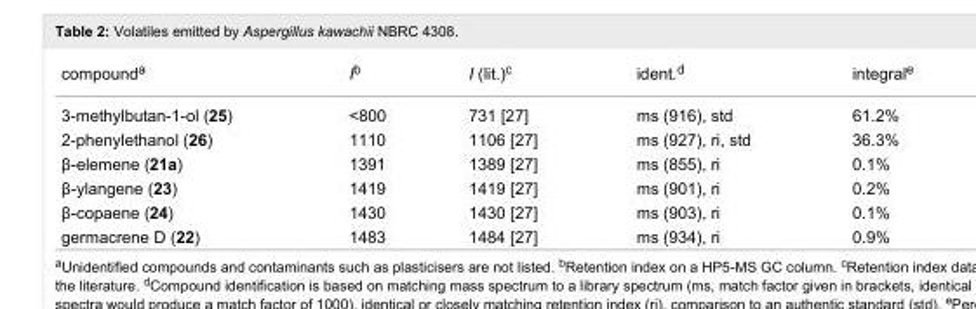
<table><tbody><tr><td>compound<sup>a</sup></td><td>I<sup>b</sup></td><td>I (lit.)<sup>c</sup></td><td>ident.<sup>d</sup></td><td>integral<sup>e</sup></td></tr><tr><td>3-methylbutan-1-ol (25)</td><td>&lt;800</td><td>731 [27]</td><td>ms (916), std</td><td>61.2%</td></tr><tr><td>2-phenylethanol (26)</td><td>1110</td><td>1106 [27]</td><td>ms (927), ri, std</td><td>36.3%</td></tr><tr><td>β-elemene (21a)</td><td>1391</td><td>1389 [27]</td><td>ms (855), ri</td><td>0.1%</td></tr><tr><td>β-ylangene (23)</td><td>1419</td><td>1419 [27]</td><td>ms (901), ri</td><td>0.2%</td></tr><tr><td>β-copaene (24)</td><td>1430</td><td>1430 [27]</td><td>ms (903), ri</td><td>0.1%</td></tr><tr><td>germacrene D (22)</td><td>1483</td><td>1484 [27]</td><td>ms (934), ri</td><td>0.9%</td></tr></tbody></table>